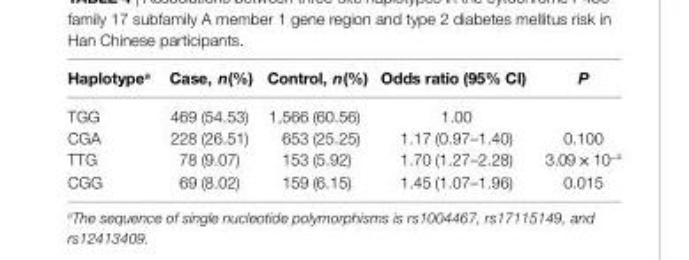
<table><thead><tr><td>haplotype<sup>a</sup></td><td>case, n(%)</td><td>control, n(%)</td><td>Odds ratio (95% ci)</td><td>P</td></tr></thead><tbody><tr><td>TGG</td><td>469 (54.53)</td><td>1,566 (60.56)</td><td>1.00</td><td></td></tr><tr><td>CGA</td><td>228 (26.51)</td><td>653 (25.25)</td><td>1.17 (0.97–1.40)</td><td>0.100</td></tr><tr><td>TTG</td><td>78 (9.07)</td><td>153 (5.92)</td><td>1.70 (1.27–2.28)</td><td>3.09 × 10<sup>−4</sup></td></tr><tr><td>CGG</td><td>69 (8.02)</td><td>159 (6.15)</td><td>1.45 (1.07–1.96)</td><td>0.015</td></tr></tbody></table>